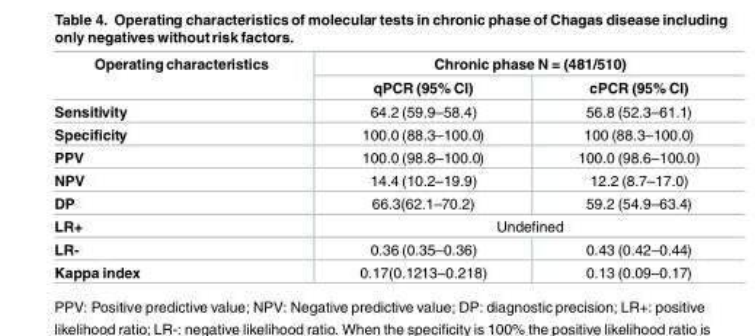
<table><thead><tr><td rowspan="2">Operating characteristics</td><td colspan="2">Chronic phase N = (481/510)</td></tr><tr><td>qPCR (95% CI)</td><td>cPCR (95% CI)</td></tr></thead><tbody><tr><td>Sensitivity</td><td>64.2 (59.9–58.4)</td><td>56.8 (52.3–61.1)</td></tr><tr><td>Specificity</td><td>100.0 (88.3–100.0)</td><td>100 (88.3–100.0)</td></tr><tr><td>PPV</td><td>100.0 (98.8–100.0)</td><td>100.0 (98.6–100.0)</td></tr><tr><td>NPV</td><td>14.4 (10.2–19.9)</td><td>12.2 (8.7–17.0)</td></tr><tr><td>DP</td><td>66.3(62.1–70.2)</td><td>59.2 (54.9–63.4)</td></tr><tr><td>LR+</td><td colspan="2">Undefined</td></tr><tr><td>LR-</td><td>0.36 (0.35–0.36)</td><td>0.43 (0.42–0.44)</td></tr><tr><td>Kappa index</td><td>0.17(0.1213–0.218)</td><td>0.13 (0.09–0.17)</td></tr></tbody></table>